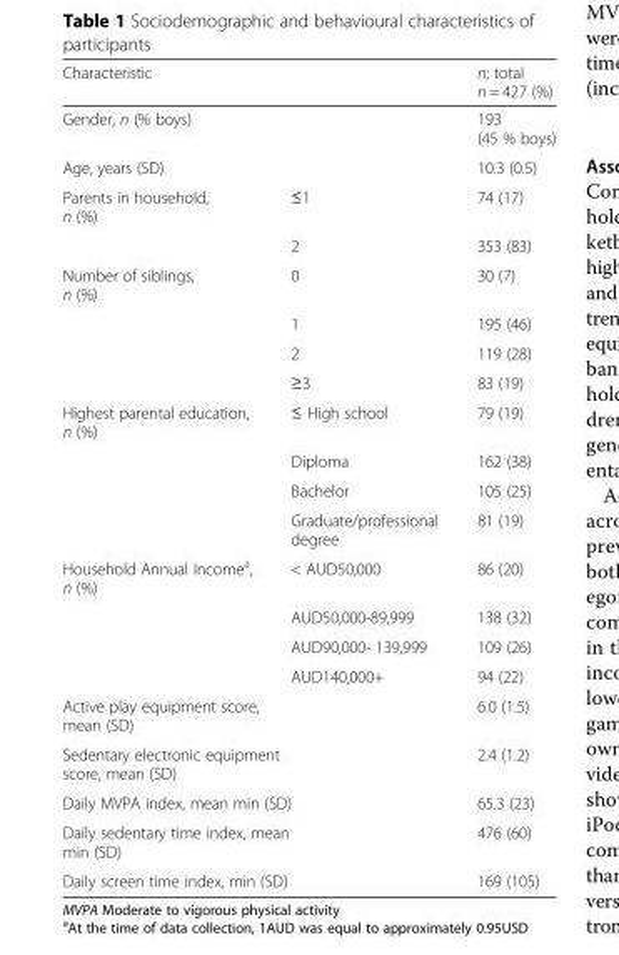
<table><thead><tr><td rowspan="3" colspan="2">Characteristic Gender, n (% boys) Age, years (SD)</td><td rowspan="4">n; total n = 427 (%) 193 (45 % boys) 10.3 (0.5) 74 (17)</td></tr><tr></tr><tr></tr><tr><td>Parents in household, n (%)</td><td>≤1</td></tr></thead><tbody><tr><td></td><td>2</td><td>353 (83)</td></tr><tr><td rowspan="4">Number of siblings, n (%)</td><td>0</td><td>30 (7)</td></tr><tr><td>1</td><td>195 (46)</td></tr><tr><td>2</td><td>119 (28)</td></tr><tr><td>≥3</td><td>83 (19)</td></tr><tr><td rowspan="4">Highest parental education, n (%)</td><td>≤ High school</td><td>79 (19)</td></tr><tr><td>Diploma</td><td>162 (38)</td></tr><tr><td>Bachelor</td><td>105 (25)</td></tr><tr><td>Graduate/professional degree</td><td>81 (19)</td></tr><tr><td rowspan="4">Household Annual Income<sup>a</sup>, n (%)</td><td>&lt; AUD50,000</td><td>86 (20)</td></tr><tr><td>AUD50,000-89,999</td><td>138 (32)</td></tr><tr><td>AUD90,000- 139,999</td><td>109 (26)</td></tr><tr><td>AUD140,000+</td><td>94 (22)</td></tr><tr><td colspan="2">Active play equipment score, mean (SD)</td><td>6.0 (1.5)</td></tr><tr><td colspan="2">Sedentary electronic equipment score, mean (SD)</td><td>2.4 (1.2)</td></tr><tr><td colspan="2">Daily MVPA index, mean min (SD)</td><td>65.3 (23)</td></tr><tr><td colspan="2">Daily sedentary time index, mean min (SD)</td><td>476 (60)</td></tr><tr><td colspan="2">Daily screen time index, min (SD)</td><td>169 (105)</td></tr></tbody></table>